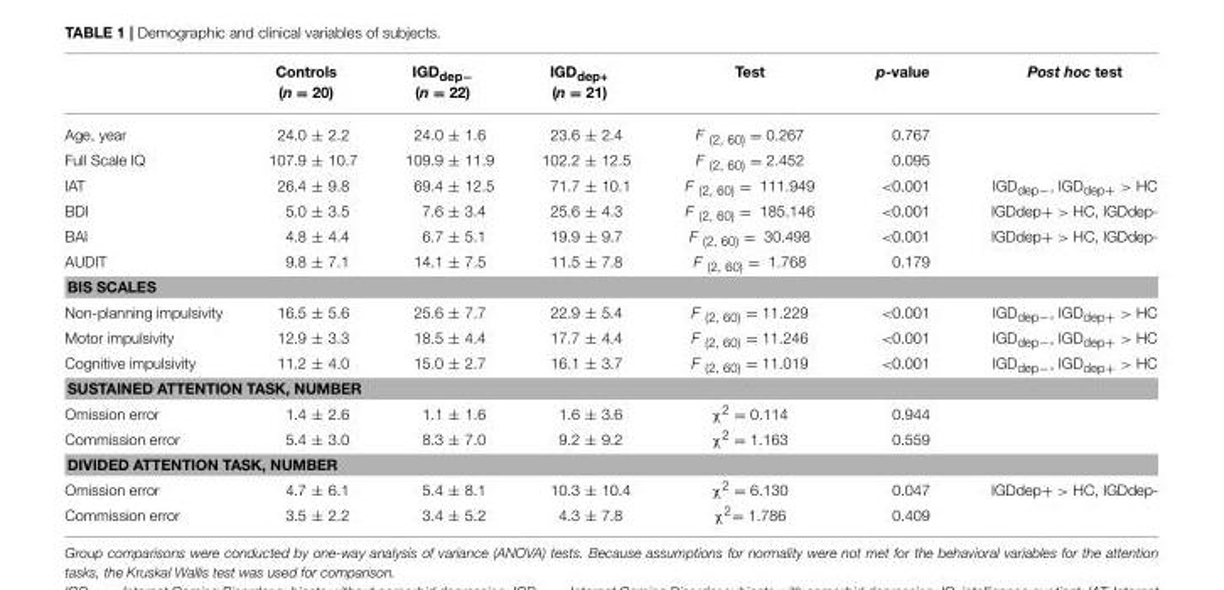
<table><thead><tr><td></td><td>Controls (n = 20)</td><td>IGD<sub>dep−</sub> (n = 22)</td><td>IGD<sub>dep+</sub> (n = 21)</td><td>Test</td><td>p-value</td><td>Post hoc test</td></tr></thead><tbody><tr><td>Age, year</td><td>24.0 ± 2.2</td><td>24.0 ± 1.6</td><td>23.6 ± 2.4</td><td>F <sub>(2, 60)</sub> = 0.267</td><td>0.767</td><td></td></tr><tr><td>Full Scale IQ</td><td>107.9 ± 10.7</td><td>109.9 ± 11.9</td><td>102.2 ± 12.5</td><td>F <sub>(2, 60)</sub> = 2.452</td><td>0.095</td><td></td></tr><tr><td>IAT</td><td>26.4 ± 9.8</td><td>69.4 ± 12.5</td><td>71.7 ± 10.1</td><td>F <sub>(2, 60)</sub> = 111.949</td><td>&lt;0.001</td><td>IGD<sub>dep−</sub>, IGD<sub>dep+</sub> &gt; HC</td></tr><tr><td>BDI</td><td>5.0 ± 3.5</td><td>7.6 ± 3.4</td><td>25.6 ± 4.3</td><td>F <sub>(2, 60)</sub> = 185.146</td><td>&lt;0.001</td><td>IGDdep+ &gt; HC, IGDdep-</td></tr><tr><td>BAI</td><td>4.8 ± 4.4</td><td>6.7 ± 5.1</td><td>19.9 ± 9.7</td><td>F <sub>(2, 60)</sub> = 30.498</td><td>&lt;0.001</td><td>IGDdep+ &gt; HC, IGDdep-</td></tr><tr><td>AUDIT</td><td>9.8 ± 7.1</td><td>14.1 ± 7.5</td><td>11.5 ± 7.8</td><td>F <sub>(2, 60)</sub> = 1.768</td><td>0.179</td><td></td></tr><tr><td colspan="7">BIS SCALES</td></tr><tr><td>Non-planning impulsivity</td><td>16.5 ± 5.6</td><td>25.6 ± 7.7</td><td>22.9 ± 5.4</td><td>F <sub>(2, 60)</sub> = 11.229</td><td>&lt;0.001</td><td>IGD<sub>dep−</sub>, IGD<sub>dep+</sub> &gt; HC</td></tr><tr><td>Motor impulsivity</td><td>12.9 ± 3.3</td><td>18.5 ± 4.4</td><td>17.7 ± 4.4</td><td>F <sub>(2, 60)</sub> = 11.246</td><td>&lt;0.001</td><td>IGD<sub>dep−</sub>, IGD<sub>dep+</sub> &gt; HC</td></tr><tr><td>Cognitive impulsivity</td><td>11.2 ± 4.0</td><td>15.0 ± 2.7</td><td>16.1 ± 3.7</td><td>F <sub>(2, 60)</sub> = 11.019</td><td>&lt;0.001</td><td>IGD<sub>dep−</sub>, IGD<sub>dep+</sub> &gt; HC</td></tr><tr><td colspan="7">SUSTAINED ATTENTION TASK, NUMBER</td></tr><tr><td>Omission error</td><td>1.4 ± 2.6</td><td>1.1 ± 1.6</td><td>1.6 ± 3.6</td><td>χ<sup>2</sup> = 0.114</td><td>0.944</td><td></td></tr><tr><td>Commission error</td><td>5.4 ± 3.0</td><td>8.3 ± 7.0</td><td>9.2 ± 9.2</td><td>χ<sup>2</sup> = 1.163</td><td>0.559</td><td></td></tr><tr><td colspan="7">DIVIDED ATTENTION TASK, NUMBER</td></tr><tr><td>Omission error</td><td>4.7 ± 6.1</td><td>5.4 ± 8.1</td><td>10.3 ± 10.4</td><td>χ<sup>2</sup> = 6.130</td><td>0.047</td><td>IGDdep+ &gt; HC, IGDdep-</td></tr><tr><td>Commission error</td><td>3.5 ± 2.2</td><td>3.4 ± 5.2</td><td>4.3 ± 7.8</td><td>χ<sup>2</sup>= 1.786</td><td>0.409</td><td></td></tr></tbody></table>